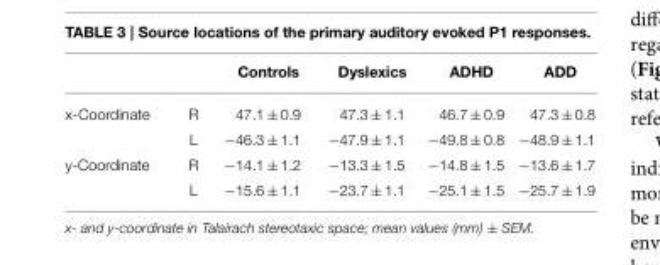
<table><thead><tr><td></td><td></td><td>Controls</td><td>Dyslexics</td><td>ADHD</td><td>ADD</td></tr></thead><tbody><tr><td rowspan="2">x-Coordinate</td><td>R</td><td>47.1 ± 0.9</td><td>47.3 ± 1.1</td><td>46.7 ± 0.9</td><td>47.3 ± 0.8</td></tr><tr><td>L</td><td>−46.3 ± 1.1</td><td>−47.9 ± 1.1</td><td>−49.8 ± 0.8</td><td>−48.9 ± 1.1</td></tr><tr><td rowspan="2">y-Coordinate</td><td>R</td><td>−14.1 ± 1.2</td><td>−13.3 ± 1.5</td><td>−14.8 ± 1.5</td><td>−13.6 ± 1.7</td></tr><tr><td>L</td><td>−15.6 ± 1.1</td><td>−23.7 ± 1.1</td><td>−25.1 ± 1.5</td><td>−25.7 ± 1.9</td></tr></tbody></table>